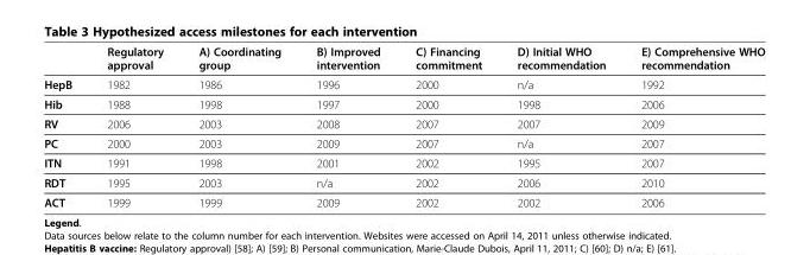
<table><thead><tr><td></td><td>Regulatory approval</td><td>A) Coordinating group</td><td>B) Improved intervention</td><td>C) Financing commitment</td><td>D) Initial WHO recommendation</td><td>E) Comprehensive WHO recommendation</td></tr></thead><tbody><tr><td>HepB</td><td>1982</td><td>1986</td><td>1996</td><td>2000</td><td>n/a</td><td>1992</td></tr><tr><td>Hib</td><td>1988</td><td>1998</td><td>1997</td><td>2000</td><td>1998</td><td>2006</td></tr><tr><td>RV</td><td>2006</td><td>2003</td><td>2008</td><td>2007</td><td>2007</td><td>2009</td></tr><tr><td>PC</td><td>2000</td><td>2003</td><td>2009</td><td>2007</td><td>n/a</td><td>2007</td></tr><tr><td>ITN</td><td>1991</td><td>1998</td><td>2001</td><td>2002</td><td>1995</td><td>2007</td></tr><tr><td>RDT</td><td>1995</td><td>2003</td><td>n/a</td><td>2002</td><td>2006</td><td>2010</td></tr><tr><td>ACT</td><td>1999</td><td>1999</td><td>2009</td><td>2002</td><td>2002</td><td>2006</td></tr></tbody></table>